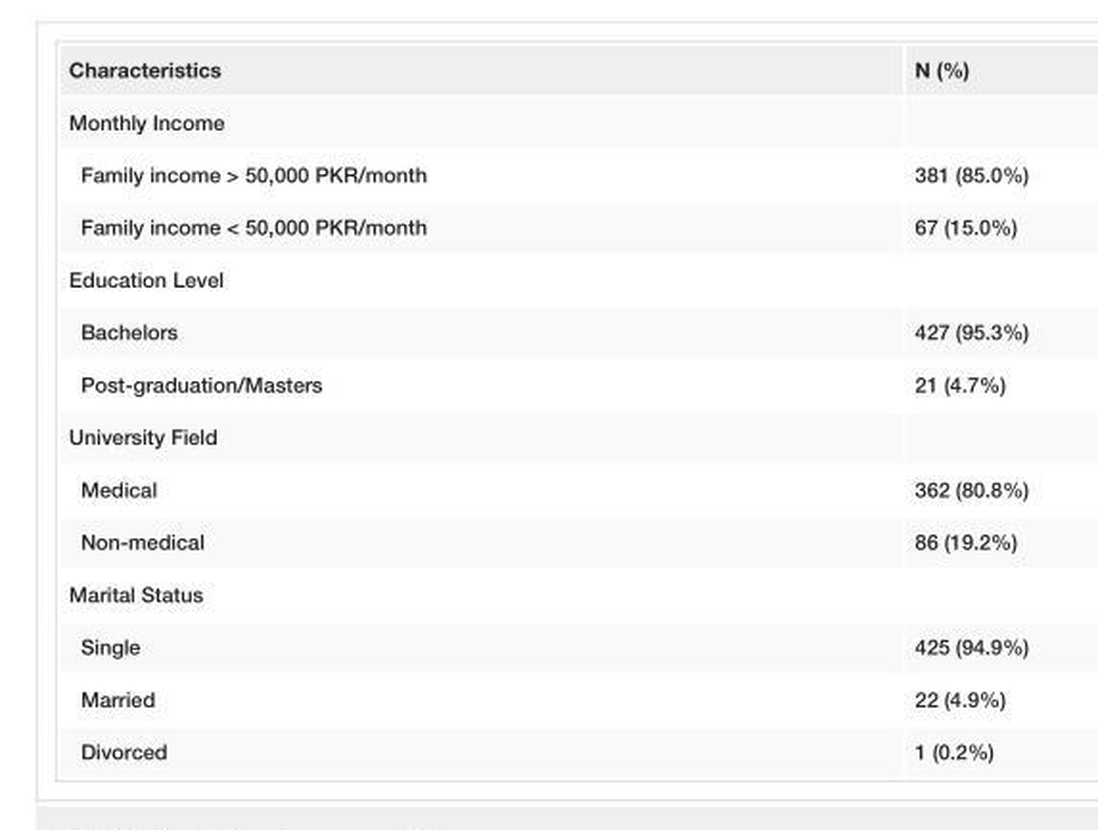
<table><tbody><tr><td>Characteristics</td><td>N (%)</td></tr><tr><td colspan="2">Monthly Income</td></tr><tr><td>Family income &gt; 50,000 PKR/month</td><td>381 (85.0%)</td></tr><tr><td>Family income &lt; 50,000 PKR/month</td><td>67 (15.0%)</td></tr><tr><td colspan="2">Education Level</td></tr><tr><td>Bachelors</td><td>427 (95.3%)</td></tr><tr><td>Post-graduation/Masters</td><td>21 (4.7%)</td></tr><tr><td colspan="2">University Field</td></tr><tr><td>Medical</td><td>362 (80.8%)</td></tr><tr><td>Non-medical</td><td>86 (19.2%)</td></tr><tr><td colspan="2">Marital Status</td></tr><tr><td>Single</td><td>425 (94.9%)</td></tr><tr><td>Married</td><td>22 (4.9%)</td></tr><tr><td>Divorced</td><td>1 (0.2%)</td></tr></tbody></table>